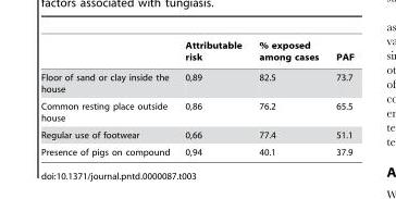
<table><thead><tr><td></td><td>Attributable risk</td><td>% exposed among cases</td><td>PAF</td></tr></thead><tbody><tr><td>Floor of sand or clay inside the house</td><td>0,89</td><td>82.5</td><td>73.7</td></tr><tr><td>Common resting place outside house</td><td>0,86</td><td>76.2</td><td>65.5</td></tr><tr><td>Regular use of footwear</td><td>0,66</td><td>77.4</td><td>51.1</td></tr><tr><td>Presence of pigs on compound</td><td>0,94</td><td>40.1</td><td>37.9</td></tr></tbody></table>